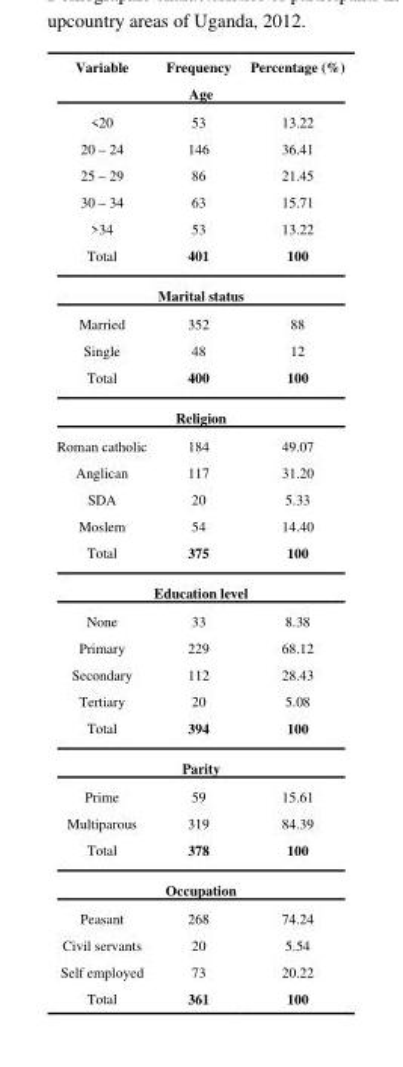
<table><thead><tr><td>Variable</td><td>Frequency</td><td>Percentage (%)</td></tr></thead><tbody><tr><td colspan="3">Age</td></tr><tr><td>&lt;20</td><td>53</td><td>13.22</td></tr><tr><td>20 – 24</td><td>146</td><td>36.41</td></tr><tr><td>25 – 29</td><td>86</td><td>21.45</td></tr><tr><td>30 – 34</td><td>63</td><td>15.71</td></tr><tr><td>&gt;34</td><td>53</td><td>13.22</td></tr><tr><td>Total</td><td>401</td><td>100</td></tr><tr><td colspan="3">Marital status</td></tr><tr><td>Married</td><td>352</td><td>88</td></tr><tr><td>Single</td><td>48</td><td>12</td></tr><tr><td>Total</td><td>400</td><td>100</td></tr><tr><td colspan="3">Religion</td></tr><tr><td>Roman catholic</td><td>184</td><td>49.07</td></tr><tr><td>Anglican</td><td>117</td><td>31.20</td></tr><tr><td>SDA</td><td>20</td><td>5.33</td></tr><tr><td>Moslem</td><td>54</td><td>14.40</td></tr><tr><td>Total</td><td>375</td><td>100</td></tr><tr><td colspan="3">Education level</td></tr><tr><td>None</td><td>33</td><td>8.38</td></tr><tr><td>Primary</td><td>229</td><td>68.12</td></tr><tr><td>Secondary</td><td>112</td><td>28.43</td></tr><tr><td>Tertiary</td><td>20</td><td>5.08</td></tr><tr><td>Total</td><td>394</td><td>100</td></tr><tr><td colspan="3">Parity</td></tr><tr><td>Prime</td><td>59</td><td>15.61</td></tr><tr><td>Multiparous</td><td>319</td><td>84.39</td></tr><tr><td>Total</td><td>378</td><td>100</td></tr><tr><td colspan="3">Occupation</td></tr><tr><td>Peasant</td><td>268</td><td>74.24</td></tr><tr><td>Civil servants</td><td>20</td><td>5.54</td></tr><tr><td>Self employed</td><td>73</td><td>20.22</td></tr><tr><td>Total</td><td>361</td><td>100</td></tr></tbody></table>